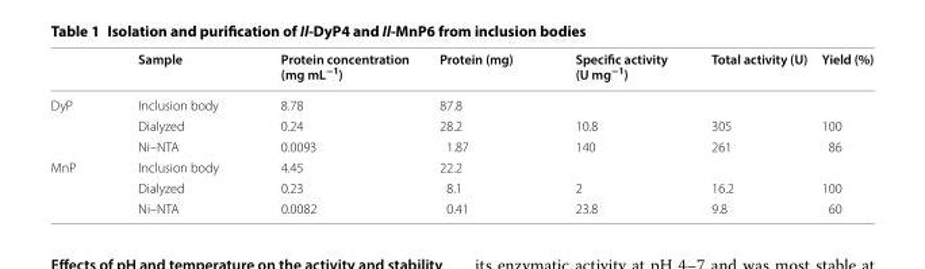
<table><thead><tr><td></td><td>Sample</td><td>Protein concentration (mg mL<sup>−1</sup>)</td><td>Protein (mg)</td><td>Specific activity (U mg<sup>−1</sup>)</td><td>Total activity (U)</td><td>Yield (%)</td></tr></thead><tbody><tr><td rowspan="3">DyP</td><td>Inclusion body</td><td>8.78</td><td>87.8</td><td></td><td></td><td></td></tr><tr><td>Dialyzed</td><td>0.24</td><td>28.2</td><td>10.8</td><td>305</td><td>100</td></tr><tr><td>Ni–NTA</td><td>0.0093</td><td>1.87</td><td>140</td><td>261</td><td>86</td></tr><tr><td rowspan="3">MnP</td><td>Inclusion body</td><td>4.45</td><td>22.2</td><td></td><td></td><td></td></tr><tr><td>Dialyzed</td><td>0.23</td><td>8.1</td><td>2</td><td>16.2</td><td>100</td></tr><tr><td>Ni–NTA</td><td>0.0082</td><td>0.41</td><td>23.8</td><td>9.8</td><td>60</td></tr></tbody></table>